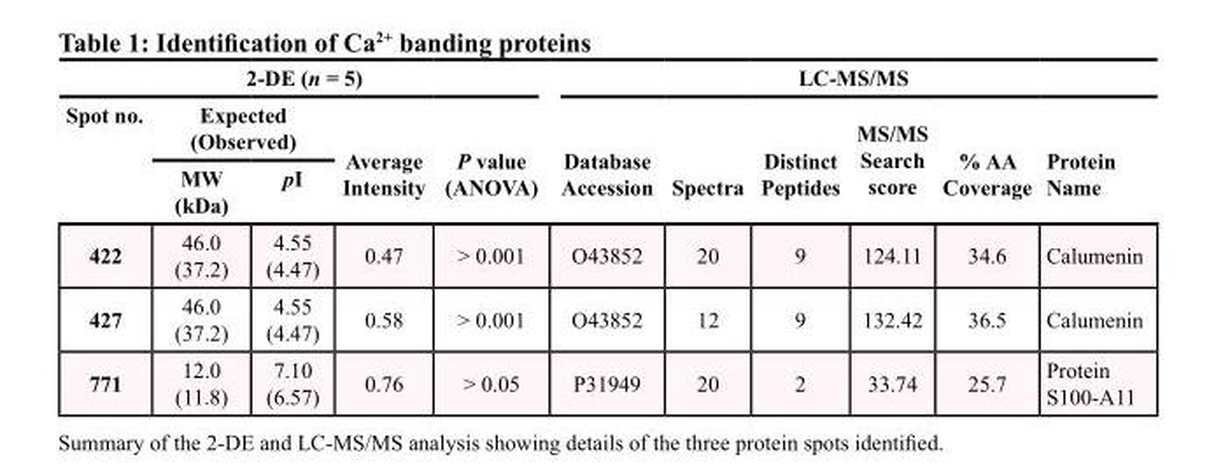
<table><thead><tr><td colspan="5">2-DE (n = 5)</td><td colspan="6">LC-MS/MS</td></tr><tr><td rowspan="2">Spot no.</td><td colspan="2">Expected (Observed)</td><td rowspan="2">Average Intensity</td><td rowspan="2">P value (ANOVA)</td><td rowspan="2">Database Accession</td><td rowspan="2">Spectra</td><td rowspan="2">Distinct Peptides</td><td rowspan="2">MS/MS Search score</td><td rowspan="2">% AA Coverage</td><td rowspan="2">Protein Name</td></tr><tr><td>MW (kDa)</td><td>pI</td></tr></thead><tbody><tr><td>422</td><td>46.0 (37.2)</td><td>4.55 (4.47)</td><td>0.47</td><td>&gt; 0.001</td><td>O43852</td><td>20</td><td>9</td><td>124.11</td><td>34.6</td><td>Calumenin</td></tr><tr><td>427</td><td>46.0 (37.2)</td><td>4.55 (4.47)</td><td>0.58</td><td>&gt; 0.001</td><td>O43852</td><td>12</td><td>9</td><td>132.42</td><td>36.5</td><td>Calumenin</td></tr><tr><td>771</td><td>12.0 (11.8)</td><td>7.10 (6.57)</td><td>0.76</td><td>&gt; 0.05</td><td>P31949</td><td>20</td><td>2</td><td>33.74</td><td>25.7</td><td>Protein S100-A11</td></tr></tbody></table>